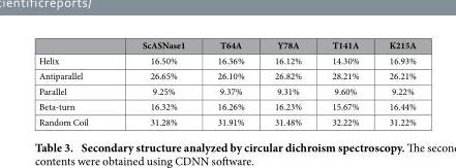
<table><thead><tr><td></td><td>ScASNase1</td><td>T64A</td><td>Y78A</td><td>T141A</td><td>K215A</td></tr></thead><tbody><tr><td>Helix</td><td>16.50%</td><td>16.36%</td><td>16.12%</td><td>14.30%</td><td>16.93%</td></tr><tr><td>Antiparallel</td><td>26.65%</td><td>26.10%</td><td>26.82%</td><td>28.21%</td><td>26.21%</td></tr><tr><td>Parallel</td><td>9.25%</td><td>9.37%</td><td>9.31%</td><td>9.60%</td><td>9.22%</td></tr><tr><td>Beta-turn</td><td>16.32%</td><td>16.26%</td><td>16.23%</td><td>15.67%</td><td>16.44%</td></tr><tr><td>Random Coil</td><td>31.28%</td><td>31.91%</td><td>31.48%</td><td>32.22%</td><td>31.22%</td></tr></tbody></table>